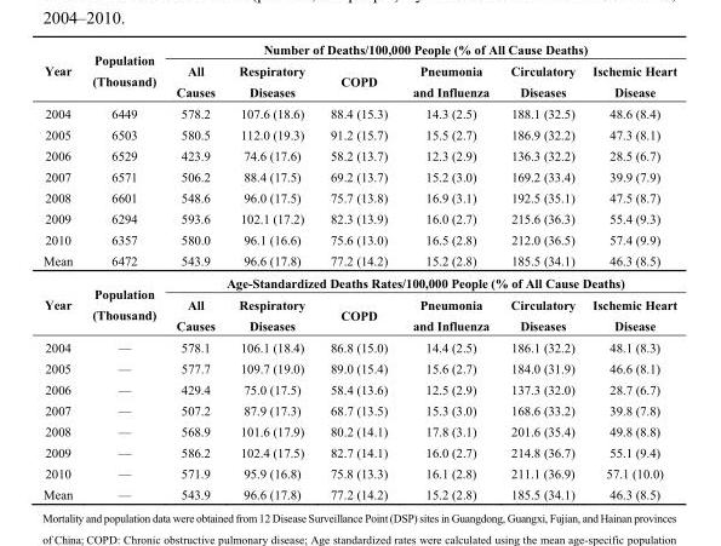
<table><thead><tr><td rowspan="2">Year</td><td rowspan="2">Population (Thousand)</td><td colspan="6">Number of Deaths/100,000 People (% of All Cause Deaths)</td></tr><tr><td>All Causes</td><td>Respiratory Diseases</td><td>COPD</td><td>Pneumonia and Influenza</td><td>Circulatory Diseases</td><td>Ischemic Heart Disease</td></tr></thead><tbody><tr><td>2004</td><td>6449</td><td>578.2</td><td>107.6 (18.6)</td><td>88.4 (15.3)</td><td>14.3 (2.5)</td><td>188.1 (32.5)</td><td>48.6 (8.4)</td></tr><tr><td>2005</td><td>6503</td><td>580.5</td><td>112.0 (19.3)</td><td>91.2 (15.7)</td><td>15.5 (2.7)</td><td>186.9 (32.2)</td><td>47.3 (8.1)</td></tr><tr><td>2006</td><td>6529</td><td>423.9</td><td>74.6 (17.6)</td><td>58.2 (13.7)</td><td>12.3 (2.9)</td><td>136.3 (32.2)</td><td>28.5 (6.7)</td></tr><tr><td>2007</td><td>6571</td><td>506.2</td><td>88.4 (17.5)</td><td>69.2 (13.7)</td><td>15.2 (3.0)</td><td>169.2 (33.4)</td><td>39.9 (7.9)</td></tr><tr><td>2008</td><td>6601</td><td>548.6</td><td>96.0 (17.5)</td><td>75.7 (13.8)</td><td>16.9 (3.1)</td><td>192.5 (35.1)</td><td>47.5 (8.7)</td></tr><tr><td>2009</td><td>6294</td><td>593.6</td><td>102.1 (17.2)</td><td>82.3 (13.9)</td><td>16.0 (2.7)</td><td>215.6 (36.3)</td><td>55.4 (9.3)</td></tr><tr><td>2010</td><td>6357</td><td>580.0</td><td>96.1 (16.6)</td><td>75.6 (13.0)</td><td>16.5 (2.8)</td><td>212.0 (36.5)</td><td>57.4 (9.9)</td></tr><tr><td>Mean</td><td>6472</td><td>543.9</td><td>96.6 (17.8)</td><td>77.2 (14.2)</td><td>15.2 (2.8)</td><td>185.5 (34.1)</td><td>46.3 (8.5)</td></tr><tr><td rowspan="2">Year</td><td rowspan="2">Population (Thousand)</td><td colspan="6">Age-Standardized Deaths Rates/100,000 People (% of All Cause Deaths)</td></tr><tr><td>All Causes</td><td>Respiratory Diseases</td><td>COPD</td><td>Pneumonia and Influenza</td><td>Circulatory Diseases</td><td>Ischemic Heart Disease</td></tr><tr><td>2004</td><td>—</td><td>578.1</td><td>106.1 (18.4)</td><td>86.8 (15.0)</td><td>14.4 (2.5)</td><td>186.1 (32.2)</td><td>48.1 (8.3)</td></tr><tr><td>2005</td><td>—</td><td>577.7</td><td>109.7 (19.0)</td><td>89.0 (15.4)</td><td>15.6 (2.7)</td><td>184.0 (31.9)</td><td>46.6 (8.1)</td></tr><tr><td>2006</td><td>—</td><td>429.4</td><td>75.0 (17.5)</td><td>58.4 (13.6)</td><td>12.5 (2.9)</td><td>137.3 (32.0)</td><td>28.7 (6.7)</td></tr><tr><td>2007</td><td>—</td><td>507.2</td><td>87.9 (17.3)</td><td>68.7 (13.5)</td><td>15.3 (3.0)</td><td>168.6 (33.2)</td><td>39.8 (7.8)</td></tr><tr><td>2008</td><td>—</td><td>568.9</td><td>101.6 (17.9)</td><td>80.2 (14.1)</td><td>17.8 (3.1)</td><td>201.6 (35.4)</td><td>49.8 (8.8)</td></tr><tr><td>2009</td><td>—</td><td>586.2</td><td>102.4 (17.5)</td><td>82.7 (14.1)</td><td>16.0 (2.7)</td><td>214.8 (36.7)</td><td>55.1 (9.4)</td></tr><tr><td>2010</td><td>—</td><td>571.9</td><td>95.9 (16.8)</td><td>75.8 (13.3)</td><td>16.1 (2.8)</td><td>211.1 (36.9)</td><td>57.1 (10.0)</td></tr><tr><td>Mean</td><td>—</td><td>543.9</td><td>96.6 (17.8)</td><td>77.2 (14.2)</td><td>15.2 (2.8)</td><td>185.5 (34.1)</td><td>46.3 (8.5)</td></tr></tbody></table>